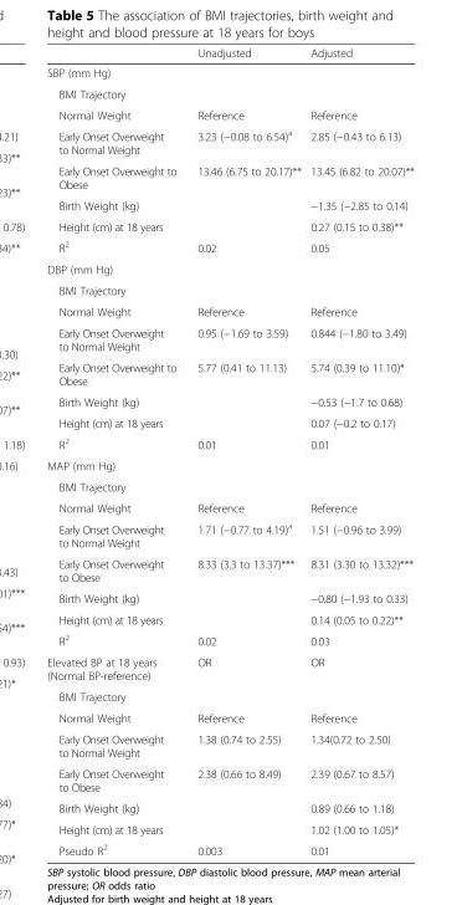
<table><thead><tr><td></td><td>Unadjusted</td><td>Adjusted</td></tr></thead><tbody><tr><td colspan="3">SBP (mm Hg)</td></tr><tr><td colspan="3">BMI Trajectory</td></tr><tr><td>Normal Weight</td><td>Reference</td><td>Reference</td></tr><tr><td>Early Onset Overweight to Normal Weight</td><td>3.23 (−0.08 to 6.54)<sup>a</sup></td><td>2.85 (−0.43 to 6.13)</td></tr><tr><td>Early Onset Overweight to Obese</td><td>13.46 (6.75 to 20.17)**</td><td>13.45 (6.82 to 20.07)**</td></tr><tr><td>Birth Weight (kg)</td><td></td><td>−1.35 (−2.85 to 0.14)</td></tr><tr><td>Height (cm) at 18 years</td><td></td><td>0.27 (0.15 to 0.38)**</td></tr><tr><td>R<sup>2</sup></td><td>0.02</td><td>0.05</td></tr><tr><td colspan="3">DBP (mm Hg)</td></tr><tr><td colspan="3">BMI Trajectory</td></tr><tr><td>Normal Weight</td><td>Reference</td><td>Reference</td></tr><tr><td>Early Onset Overweight to Normal Weight</td><td>0.95 (−1.69 to 3.59)</td><td>0.844 (−1.80 to 3.49)</td></tr><tr><td>Early Onset Overweight to Obese</td><td>5.77 (0.41 to 11.13)</td><td>5.74 (0.39 to 11.10)*</td></tr><tr><td>Birth Weight (kg)</td><td></td><td>−0.53 (−1.7 to 0.68)</td></tr><tr><td>Height (cm) at 18 years</td><td></td><td>0.07 (−0.2 to 0.17)</td></tr><tr><td>R<sup>2</sup></td><td>0.01</td><td>0.01</td></tr><tr><td colspan="3">MAP (mm Hg)</td></tr><tr><td colspan="3">BMI Trajectory</td></tr><tr><td>Normal Weight</td><td>Reference</td><td>Reference</td></tr><tr><td>Early Onset Overweight to Normal Weight</td><td>1.71 (−0.77 to 4.19)<sup>a</sup></td><td>1.51 (−0.96 to 3.99)</td></tr><tr><td>Early Onset Overweight to Obese</td><td>8.33 (3.3 to 13.37)***</td><td>8.31 (3.30 to 13.32)***</td></tr><tr><td>Birth Weight (kg)</td><td></td><td>−0.80 (−1.93 to 0.33)</td></tr><tr><td>Height (cm) at 18 years</td><td></td><td>0.14 (0.05 to 0.22)**</td></tr><tr><td>R<sup>2</sup></td><td>0.02</td><td>0.03</td></tr><tr><td>Elevated BP at 18 years (Normal BP-reference)</td><td>OR</td><td>OR</td></tr><tr><td colspan="3">BMI Trajectory</td></tr><tr><td>Normal Weight</td><td>Reference</td><td>Reference</td></tr><tr><td>Early Onset Overweight to Normal Weight</td><td>1.38 (0.74 to 2.55)</td><td>1.34(0.72 to 2.50)</td></tr><tr><td>Early Onset Overweight to Obese</td><td>2.38 (0.66 to 8.49)</td><td>2.39 (0.67 to 8.57)</td></tr><tr><td>Birth Weight (kg)</td><td></td><td>0.89 (0.66 to 1.18)</td></tr><tr><td>Height (cm) at 18 years</td><td></td><td>1.02 (1.00 to 1.05)*</td></tr><tr><td>Pseudo R<sup>2</sup></td><td>0.003</td><td>0.01</td></tr></tbody></table>